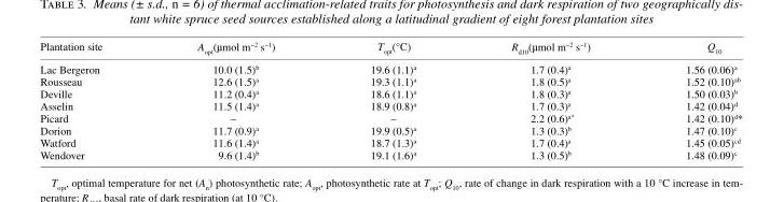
<table><thead><tr><td>Plantation site</td><td>A<sub>opt</sub>(µmol m<sup>−2</sup> s<sup>−1</sup>)</td><td>T<sub>opt</sub>(°C)</td><td>R<sub>d10</sub>(µmol m<sup>−2</sup> s<sup>−1</sup>)</td><td>Q<sub>10</sub></td></tr></thead><tbody><tr><td>Lac Bergeron</td><td>10.0 (1.5)<sup>b</sup></td><td>19.6 (1.1)<sup>a</sup></td><td>1.7 (0.4)<sup>a</sup></td><td>1.56 (0.06)<sup>a</sup></td></tr><tr><td>Rousseau</td><td>12.6 (1.5)<sup>a</sup></td><td>19.3 (1.1)<sup>a</sup></td><td>1.8 (0.5)<sup>a</sup></td><td>1.52 (0.10)<sup>ab</sup></td></tr><tr><td>Deville</td><td>11.2 (0.4)<sup>a</sup></td><td>18.6 (1.1)<sup>a</sup></td><td>1.8 (0.3)<sup>a</sup></td><td>1.50 (0.03)<sup>b</sup></td></tr><tr><td>Asselin</td><td>11.5 (1.4)<sup>a</sup></td><td>18.9 (0.8)<sup>a</sup></td><td>1.7 (0.3)<sup>a</sup></td><td>1.42 (0.04)<sup>d</sup></td></tr><tr><td>Picard</td><td>–</td><td>–</td><td>2.2 (0.6)<sup>a*</sup></td><td>1.42 (0.10)<sup>d</sup>*</td></tr><tr><td>Dorion</td><td>11.7 (0.9)<sup>a</sup></td><td>19.9 (0.5)<sup>a</sup></td><td>1.3 (0.3)<sup>b</sup></td><td>1.47 (0.10)<sup>c</sup></td></tr><tr><td>Watford</td><td>11.6 (1.4)<sup>a</sup></td><td>18.7 (1.3)<sup>a</sup></td><td>1.7 (0.4)<sup>a</sup></td><td>1.45 (0.05)<sup>cd</sup></td></tr><tr><td>Wendover</td><td>9.6 (1.4)<sup>b</sup></td><td>19.1 (1.6)<sup>a</sup></td><td>1.3 (0.5)<sup>b</sup></td><td>1.48 (0.09)<sup>c</sup></td></tr></tbody></table>